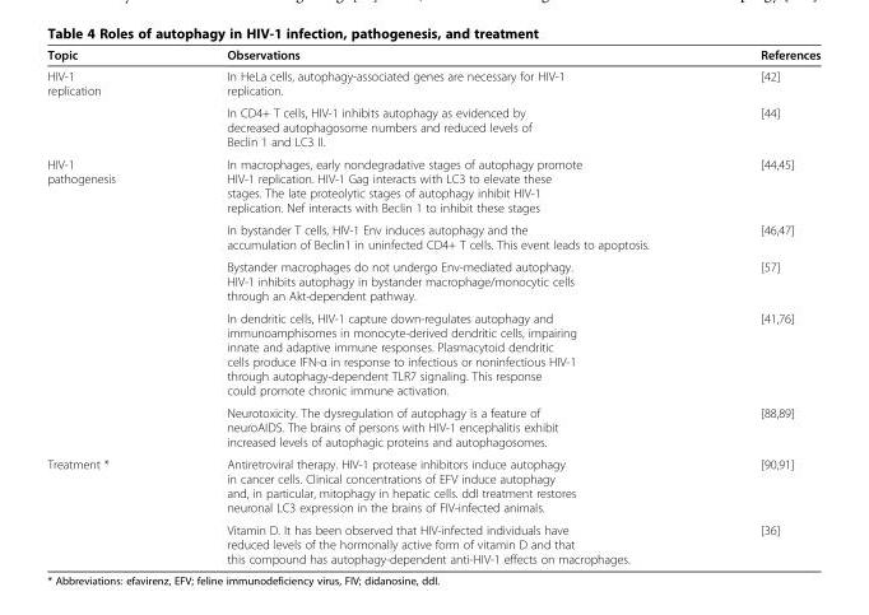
<table><thead><tr><td>Topic</td><td>Observations</td><td>References</td></tr></thead><tbody><tr><td rowspan="2">HIV-1 replication</td><td>In HeLa cells, autophagy-associated genes are necessary for HIV-1 replication.</td><td>[42]</td></tr><tr><td>In CD4+ T cells, HIV-1 inhibits autophagy as evidenced by decreased autophagosome numbers and reduced levels of Beclin 1 and LC3 II.</td><td>[44]</td></tr><tr><td rowspan="5">HIV-1 pathogenesis</td><td>In macrophages, early nondegradative stages of autophagy promote HIV-1 replication. HIV-1 Gag interacts with LC3 to elevate these stages. The late proteolytic stages of autophagy inhibit HIV-1 replication. Nef interacts with Beclin 1 to inhibit these stages</td><td>[44,45]</td></tr><tr><td>In bystander T cells, HIV-1 Env induces autophagy and the accumulation of Beclin1 in uninfected CD4+ T cells. This event leads to apoptosis.</td><td>[46,47]</td></tr><tr><td>Bystander macrophages do not undergo Env-mediated autophagy. HIV-1 inhibits autophagy in bystander macrophage/monocytic cells through an Akt-dependent pathway.</td><td>[57]</td></tr><tr><td>In dendritic cells, HIV-1 capture down-regulates autophagy and immunoamphisomes in monocyte-derived dendritic cells, impairing innate and adaptive immune responses. Plasmacytoid dendritic cells produce IFN-α in response to infectious or noninfectious HIV-1 through autophagy-dependent TLR7 signaling. This response could promote chronic immune activation.</td><td>[41,76]</td></tr><tr><td>Neurotoxicity. The dysregulation of autophagy is a feature of neuroAIDS. The brains of persons with HIV-1 encephalitis exhibit increased levels of autophagic proteins and autophagosomes.</td><td>[88,89]</td></tr><tr><td rowspan="2">Treatment *</td><td>Antiretroviral therapy. HIV-1 protease inhibitors induce autophagy in cancer cells. Clinical concentrations of EFV induce autophagy and, in particular, mitophagy in hepatic cells. ddI treatment restores neuronal LC3 expression in the brains of FIV-infected animals.</td><td>[90,91]</td></tr><tr><td>Vitamin D. It has been observed that HIV-infected individuals have reduced levels of the hormonally active form of vitamin D and that this compound has autophagy-dependent anti-HIV-1 effects on macrophages.</td><td>[36]</td></tr></tbody></table>